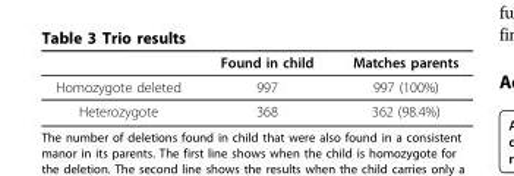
<table><thead><tr><td></td><td>Found in child</td><td>Matches parents</td></tr></thead><tbody><tr><td>Homozygote deleted</td><td>997</td><td>997 (100%)</td></tr><tr><td>Heterozygote</td><td>368</td><td>362 (98.4%)</td></tr></tbody></table>